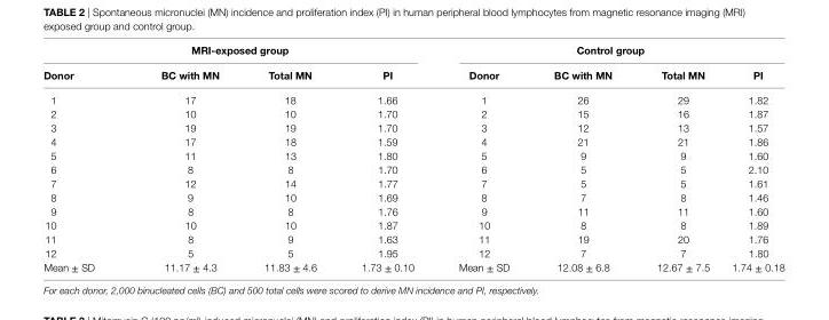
<table><thead><tr><td colspan="4">Mri-exposed group</td><td colspan="4">control group</td></tr><tr><td>Donor</td><td>Bc with Mn</td><td>Total Mn</td><td>Pi</td><td>Donor</td><td>Bc with Mn</td><td>Total Mn</td><td>Pi</td></tr></thead><tbody><tr><td>1</td><td>17</td><td>18</td><td>1.66</td><td>1</td><td>26</td><td>29</td><td>1.82</td></tr><tr><td>2</td><td>10</td><td>10</td><td>1.70</td><td>2</td><td>15</td><td>16</td><td>1.87</td></tr><tr><td>3</td><td>19</td><td>19</td><td>1.70</td><td>3</td><td>12</td><td>13</td><td>1.57</td></tr><tr><td>4</td><td>17</td><td>18</td><td>1.59</td><td>4</td><td>21</td><td>21</td><td>1.86</td></tr><tr><td>5</td><td>11</td><td>13</td><td>1.80</td><td>5</td><td>9</td><td>9</td><td>1.60</td></tr><tr><td>6</td><td>8</td><td>8</td><td>1.70</td><td>6</td><td>5</td><td>5</td><td>2.10</td></tr><tr><td>7</td><td>12</td><td>14</td><td>1.77</td><td>7</td><td>5</td><td>5</td><td>1.61</td></tr><tr><td>8</td><td>9</td><td>10</td><td>1.69</td><td>8</td><td>7</td><td>8</td><td>1.46</td></tr><tr><td>9</td><td>8</td><td>8</td><td>1.76</td><td>9</td><td>11</td><td>11</td><td>1.60</td></tr><tr><td>10</td><td>10</td><td>10</td><td>1.87</td><td>10</td><td>8</td><td>8</td><td>1.89</td></tr><tr><td>11</td><td>8</td><td>9</td><td>1.63</td><td>11</td><td>19</td><td>20</td><td>1.76</td></tr><tr><td>12</td><td>5</td><td>5</td><td>1.95</td><td>12</td><td>7</td><td>7</td><td>1.80</td></tr><tr><td>Mean ± SD</td><td>11.17 ± 4.3</td><td>11.83 ± 4.6</td><td>1.73 ± 0.10</td><td>Mean ± SD</td><td>12.08 ± 6.8</td><td>12.67 ± 7.5</td><td>1.74 ± 0.18</td></tr></tbody></table>